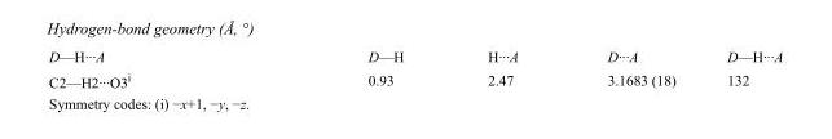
<table><tbody><tr><td>D—H···A</td><td>D—H</td><td>H···A</td><td>D···A</td><td>D—H···A</td></tr><tr><td>C2—H2···O3<sup>i</sup></td><td>0.93</td><td>2.47</td><td>3.1683 (18)</td><td>132</td></tr></tbody></table>